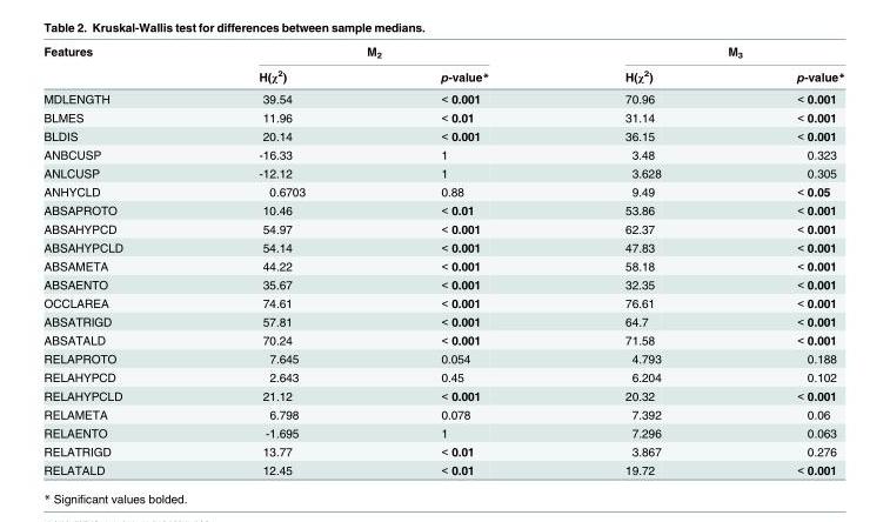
<table><thead><tr><td rowspan="2">Features</td><td colspan="2">M<sub>2</sub></td><td colspan="2">M<sub>3</sub></td></tr><tr><td>H(χ<sup>2</sup>)</td><td>p-value*</td><td>H(χ<sup>2</sup>)</td><td>p-value*</td></tr></thead><tbody><tr><td>MDLENGTH</td><td>39.54</td><td>&lt; 0.001</td><td>70.96</td><td>&lt; 0.001</td></tr><tr><td>BLMES</td><td>11.96</td><td>&lt; 0.01</td><td>31.14</td><td>&lt; 0.001</td></tr><tr><td>BLDIS</td><td>20.14</td><td>&lt; 0.001</td><td>36.15</td><td>&lt; 0.001</td></tr><tr><td>ANBCUSP</td><td>-16.33</td><td>1</td><td>3.48</td><td>0.323</td></tr><tr><td>ANLCUSP</td><td>-12.12</td><td>1</td><td>3.628</td><td>0.305</td></tr><tr><td>ANHYCLD</td><td>0.6703</td><td>0.88</td><td>9.49</td><td>&lt; 0.05</td></tr><tr><td>ABSAPROTO</td><td>10.46</td><td>&lt; 0.01</td><td>53.86</td><td>&lt; 0.001</td></tr><tr><td>ABSAHYPCD</td><td>54.97</td><td>&lt; 0.001</td><td>62.37</td><td>&lt; 0.001</td></tr><tr><td>ABSAHYPCLD</td><td>54.14</td><td>&lt; 0.001</td><td>47.83</td><td>&lt; 0.001</td></tr><tr><td>ABSAMETA</td><td>44.22</td><td>&lt; 0.001</td><td>58.18</td><td>&lt; 0.001</td></tr><tr><td>ABSAENTO</td><td>35.67</td><td>&lt; 0.001</td><td>32.35</td><td>&lt; 0.001</td></tr><tr><td>OCCLAREA</td><td>74.61</td><td>&lt; 0.001</td><td>76.61</td><td>&lt; 0.001</td></tr><tr><td>ABSATRIGD</td><td>57.81</td><td>&lt; 0.001</td><td>64.7</td><td>&lt; 0.001</td></tr><tr><td>ABSATALD</td><td>70.24</td><td>&lt; 0.001</td><td>71.58</td><td>&lt; 0.001</td></tr><tr><td>RELAPROTO</td><td>7.645</td><td>0.054</td><td>4.793</td><td>0.188</td></tr><tr><td>RELAHYPCD</td><td>2.643</td><td>0.45</td><td>6.204</td><td>0.102</td></tr><tr><td>RELAHYPCLD</td><td>21.12</td><td>&lt; 0.001</td><td>20.32</td><td>&lt; 0.001</td></tr><tr><td>RELAMETA</td><td>6.798</td><td>0.078</td><td>7.392</td><td>0.06</td></tr><tr><td>RELAENTO</td><td>-1.695</td><td>1</td><td>7.296</td><td>0.063</td></tr><tr><td>RELATRIGD</td><td>13.77</td><td>&lt; 0.01</td><td>3.867</td><td>0.276</td></tr><tr><td>RELATALD</td><td>12.45</td><td>&lt; 0.01</td><td>19.72</td><td>&lt; 0.001</td></tr></tbody></table>